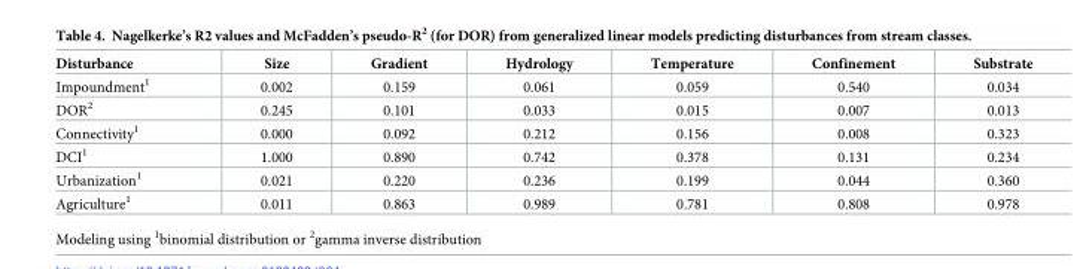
<table><thead><tr><td>Disturbance</td><td>Size</td><td>Gradient</td><td>Hydrology</td><td>Temperature</td><td>Confinement</td><td>Substrate</td></tr></thead><tbody><tr><td>Impoundment<sup>1</sup></td><td>0.002</td><td>0.159</td><td>0.061</td><td>0.059</td><td>0.540</td><td>0.034</td></tr><tr><td>DOR<sup>2</sup></td><td>0.245</td><td>0.101</td><td>0.033</td><td>0.015</td><td>0.007</td><td>0.013</td></tr><tr><td>Connectivity<sup>1</sup></td><td>0.000</td><td>0.092</td><td>0.212</td><td>0.156</td><td>0.008</td><td>0.323</td></tr><tr><td>DCI<sup>1</sup></td><td>1.000</td><td>0.890</td><td>0.742</td><td>0.378</td><td>0.131</td><td>0.234</td></tr><tr><td>Urbanization<sup>1</sup></td><td>0.021</td><td>0.220</td><td>0.236</td><td>0.199</td><td>0.044</td><td>0.360</td></tr><tr><td>Agriculture<sup>1</sup></td><td>0.011</td><td>0.863</td><td>0.989</td><td>0.781</td><td>0.808</td><td>0.978</td></tr></tbody></table>